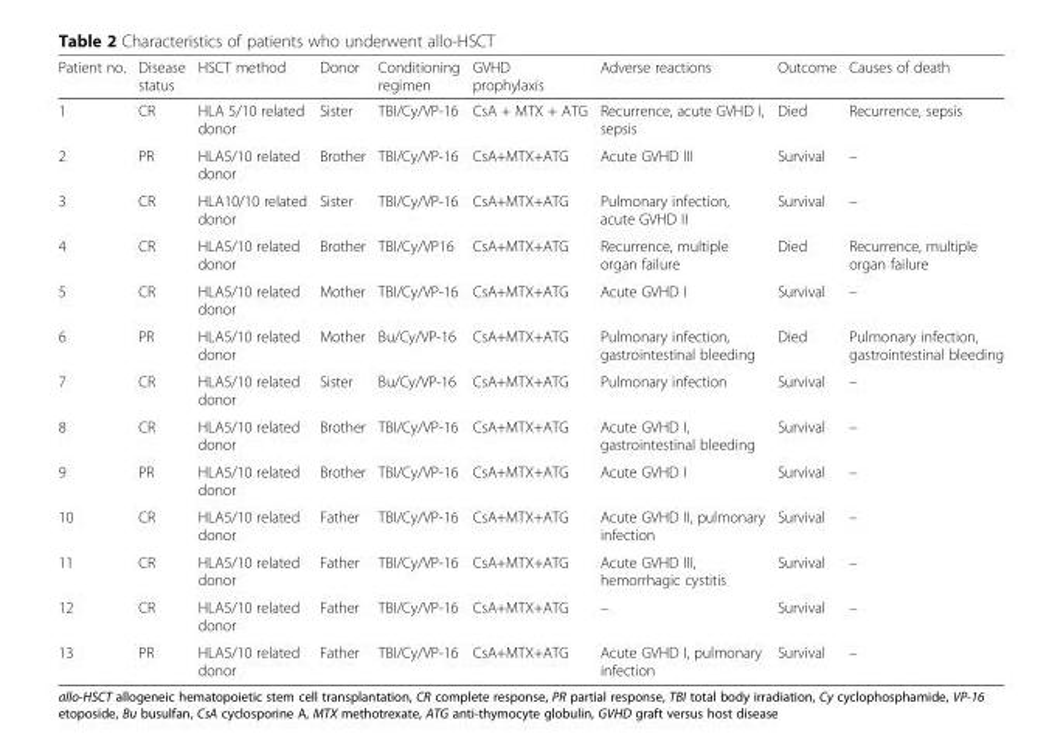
<table><thead><tr><td>Patient no.</td><td>Disease status</td><td>HSCT method</td><td>Donor</td><td>Conditioning regimen</td><td>GVHD prophylaxis</td><td>Adverse reactions</td><td>Outcome</td><td>Causes of death</td></tr></thead><tbody><tr><td>1</td><td>CR</td><td>HLA 5/10 related donor</td><td>Sister</td><td>TBI/Cy/VP-16</td><td>CsA + MTX + ATG</td><td>Recurrence, acute GVHD I, sepsis</td><td>Died</td><td>Recurrence, sepsis</td></tr><tr><td>2</td><td>PR</td><td>HLA5/10 related donor</td><td>Brother</td><td>TBI/Cy/VP-16</td><td>CsA+MTX+ATG</td><td>Acute GVHD III</td><td>Survival</td><td>–</td></tr><tr><td>3</td><td>CR</td><td>HLA10/10 related donor</td><td>Sister</td><td>TBI/Cy/VP-16</td><td>CsA+MTX+ATG</td><td>Pulmonary infection, acute GVHD II</td><td>Survival</td><td>–</td></tr><tr><td>4</td><td>CR</td><td>HLA5/10 related donor</td><td>Brother</td><td>TBI/Cy/VP16</td><td>CsA+MTX+ATG</td><td>Recurrence, multiple organ failure</td><td>Died</td><td>Recurrence, multiple organ failure</td></tr><tr><td>5</td><td>CR</td><td>HLA5/10 related donor</td><td>Mother</td><td>TBI/Cy/VP-16</td><td>CsA+MTX+ATG</td><td>Acute GVHD I</td><td>Survival</td><td>–</td></tr><tr><td>6</td><td>PR</td><td>HLA5/10 related donor</td><td>Mother</td><td>Bu/Cy/VP-16</td><td>CsA+MTX+ATG</td><td>Pulmonary infection, gastrointestinal bleeding</td><td>Died</td><td>Pulmonary infection, gastrointestinal bleeding</td></tr><tr><td>7</td><td>CR</td><td>HLA5/10 related donor</td><td>Sister</td><td>Bu/Cy/VP-16</td><td>CsA+MTX+ATG</td><td>Pulmonary infection</td><td>Survival</td><td>–</td></tr><tr><td>8</td><td>CR</td><td>HLA5/10 related donor</td><td>Brother</td><td>TBI/Cy/VP-16</td><td>CsA+MTX+ATG</td><td>Acute GVHD I, gastrointestinal bleeding</td><td>Survival</td><td>–</td></tr><tr><td>9</td><td>PR</td><td>HLA5/10 related donor</td><td>Brother</td><td>TBI/Cy/VP-16</td><td>CsA+MTX+ATG</td><td>Acute GVHD I</td><td>Survival</td><td>–</td></tr><tr><td>10</td><td>CR</td><td>HLA5/10 related donor</td><td>Father</td><td>TBI/Cy/VP-16</td><td>CsA+MTX+ATG</td><td>Acute GVHD II, pulmonary infection</td><td>Survival</td><td>–</td></tr><tr><td>11</td><td>CR</td><td>HLA5/10 related donor</td><td>Father</td><td>TBI/Cy/VP-16</td><td>CsA+MTX+ATG</td><td>Acute GVHD III, hemorrhagic cystitis</td><td>Survival</td><td>–</td></tr><tr><td>12</td><td>CR</td><td>HLA5/10 related donor</td><td>Father</td><td>TBI/Cy/VP-16</td><td>CsA+MTX+ATG</td><td>–</td><td>Survival</td><td>–</td></tr><tr><td>13</td><td>PR</td><td>HLA5/10 related donor</td><td>Father</td><td>TBI/Cy/VP-16</td><td>CsA+MTX+ATG</td><td>Acute GVHD I, pulmonary infection</td><td>Survival</td><td>–</td></tr></tbody></table>